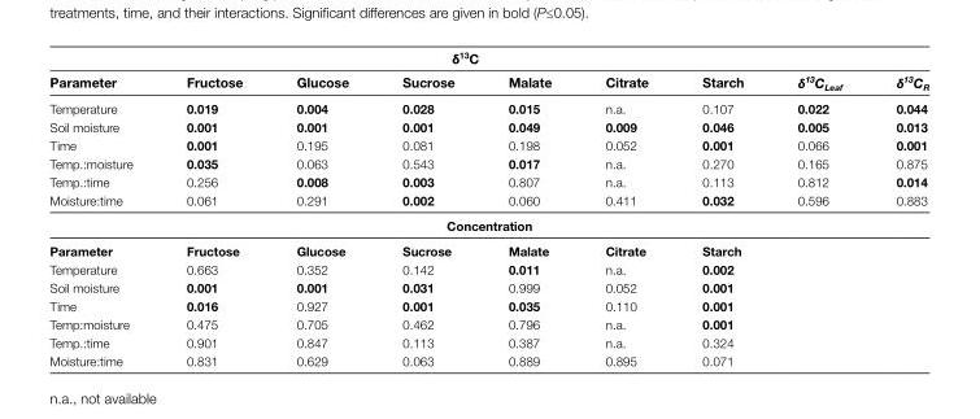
<table><thead><tr><td rowspan="2">Parameter</td><td colspan="6">δ<sup>13</sup>C</td><td rowspan="2">δ<sup>13</sup>C<sub>Leaf</sub></td><td rowspan="2">δ<sup>13</sup>C<sub>R</sub></td></tr><tr><td>Fructose</td><td>Glucose</td><td>Sucrose</td><td>Malate</td><td>Citrate</td><td>Starch</td></tr></thead><tbody><tr><td>Temperature</td><td>0.019</td><td>0.004</td><td>0.028</td><td>0.015</td><td>n.a.</td><td>0.107</td><td>0.022</td><td>0.044</td></tr><tr><td>Soil moisture</td><td>0.001</td><td>0.001</td><td>0.001</td><td>0.049</td><td>0.009</td><td>0.046</td><td>0.005</td><td>0.013</td></tr><tr><td>Time</td><td>0.001</td><td>0.195</td><td>0.081</td><td>0.198</td><td>0.052</td><td>0.001</td><td>0.066</td><td>0.001</td></tr><tr><td>Temp.:moisture</td><td>0.035</td><td>0.063</td><td>0.543</td><td>0.017</td><td>n.a.</td><td>0.270</td><td>0.165</td><td>0.875</td></tr><tr><td>Temp.:time</td><td>0.256</td><td>0.008</td><td>0.003</td><td>0.807</td><td>n.a.</td><td>0.113</td><td>0.812</td><td>0.014</td></tr><tr><td rowspan="2">Moisture:time</td><td>0.061</td><td>0.291</td><td>0.002</td><td>0.060</td><td>0.411</td><td>0.032</td><td>0.596</td><td>0.883</td></tr><tr><td colspan="8">Concentration</td></tr><tr><td>Parameter</td><td>Fructose</td><td>Glucose</td><td>Sucrose</td><td>Malate</td><td>Citrate</td><td colspan="3">Starch</td></tr><tr><td>Temperature</td><td>0.663</td><td>0.352</td><td>0.142</td><td>0.011</td><td>n.a.</td><td colspan="3">0.002</td></tr><tr><td>Soil moisture</td><td>0.001</td><td>0.001</td><td>0.031</td><td>0.999</td><td>0.052</td><td colspan="3">0.001</td></tr><tr><td>Time</td><td>0.016</td><td>0.927</td><td>0.001</td><td>0.035</td><td>0.110</td><td colspan="3">0.001</td></tr><tr><td>Temp:moisture</td><td>0.475</td><td>0.705</td><td>0.462</td><td>0.796</td><td>n.a.</td><td colspan="3">0.001</td></tr><tr><td>Temp.:time</td><td>0.901</td><td>0.847</td><td>0.113</td><td>0.387</td><td>n.a.</td><td colspan="3">0.324</td></tr><tr><td>Moisture:time</td><td>0.831</td><td>0.629</td><td>0.063</td><td>0.889</td><td>0.895</td><td colspan="3">0.071</td></tr></tbody></table>